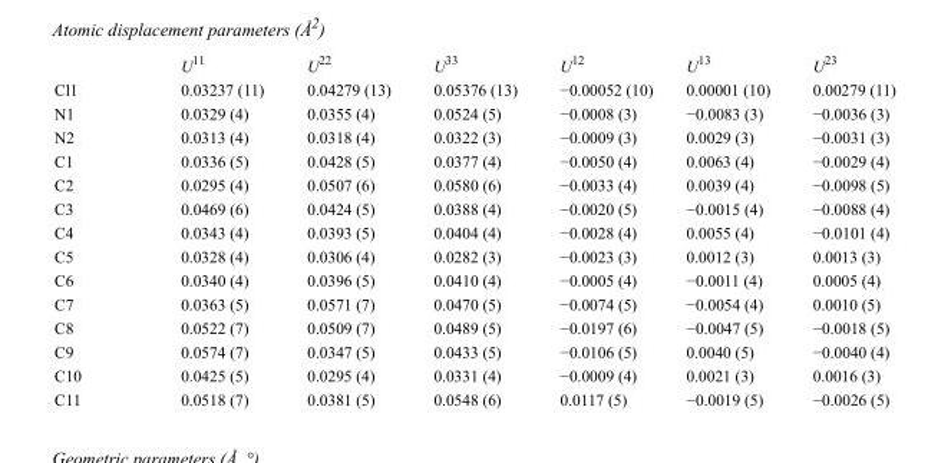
<table><thead><tr><td></td><td>U<sup>11</sup></td><td>U<sup>22</sup></td><td>U<sup>33</sup></td><td>U<sup>12</sup></td><td>U<sup>13</sup></td><td>U<sup>23</sup></td></tr></thead><tbody><tr><td>Cl1</td><td>0.03237 (11)</td><td>0.04279 (13)</td><td>0.05376 (13)</td><td>−0.00052 (10)</td><td>0.00001 (10)</td><td>0.00279 (11)</td></tr><tr><td>N1</td><td>0.0329 (4)</td><td>0.0355 (4)</td><td>0.0524 (5)</td><td>−0.0008 (3)</td><td>−0.0083 (3)</td><td>−0.0036 (3)</td></tr><tr><td>N2</td><td>0.0313 (4)</td><td>0.0318 (4)</td><td>0.0322 (3)</td><td>−0.0009 (3)</td><td>0.0029 (3)</td><td>−0.0031 (3)</td></tr><tr><td>C1</td><td>0.0336 (5)</td><td>0.0428 (5)</td><td>0.0377 (4)</td><td>−0.0050 (4)</td><td>0.0063 (4)</td><td>−0.0029 (4)</td></tr><tr><td>C2</td><td>0.0295 (4)</td><td>0.0507 (6)</td><td>0.0580 (6)</td><td>−0.0033 (4)</td><td>0.0039 (4)</td><td>−0.0098 (5)</td></tr><tr><td>C3</td><td>0.0469 (6)</td><td>0.0424 (5)</td><td>0.0388 (4)</td><td>−0.0020 (5)</td><td>−0.0015 (4)</td><td>−0.0088 (4)</td></tr><tr><td>C4</td><td>0.0343 (4)</td><td>0.0393 (5)</td><td>0.0404 (4)</td><td>−0.0028 (4)</td><td>0.0055 (4)</td><td>−0.0101 (4)</td></tr><tr><td>C5</td><td>0.0328 (4)</td><td>0.0306 (4)</td><td>0.0282 (3)</td><td>−0.0023 (3)</td><td>0.0012 (3)</td><td>0.0013 (3)</td></tr><tr><td>C6</td><td>0.0340 (4)</td><td>0.0396 (5)</td><td>0.0410 (4)</td><td>−0.0005 (4)</td><td>−0.0011 (4)</td><td>0.0005 (4)</td></tr><tr><td>C7</td><td>0.0363 (5)</td><td>0.0571 (7)</td><td>0.0470 (5)</td><td>−0.0074 (5)</td><td>−0.0054 (4)</td><td>0.0010 (5)</td></tr><tr><td>C8</td><td>0.0522 (7)</td><td>0.0509 (7)</td><td>0.0489 (5)</td><td>−0.0197 (6)</td><td>−0.0047 (5)</td><td>−0.0018 (5)</td></tr><tr><td>C9</td><td>0.0574 (7)</td><td>0.0347 (5)</td><td>0.0433 (5)</td><td>−0.0106 (5)</td><td>0.0040 (5)</td><td>−0.0040 (4)</td></tr><tr><td>C10</td><td>0.0425 (5)</td><td>0.0295 (4)</td><td>0.0331 (4)</td><td>−0.0009 (4)</td><td>0.0021 (3)</td><td>0.0016 (3)</td></tr><tr><td>C11</td><td>0.0518 (7)</td><td>0.0381 (5)</td><td>0.0548 (6)</td><td>0.0117 (5)</td><td>−0.0019 (5)</td><td>−0.0026 (5)</td></tr></tbody></table>